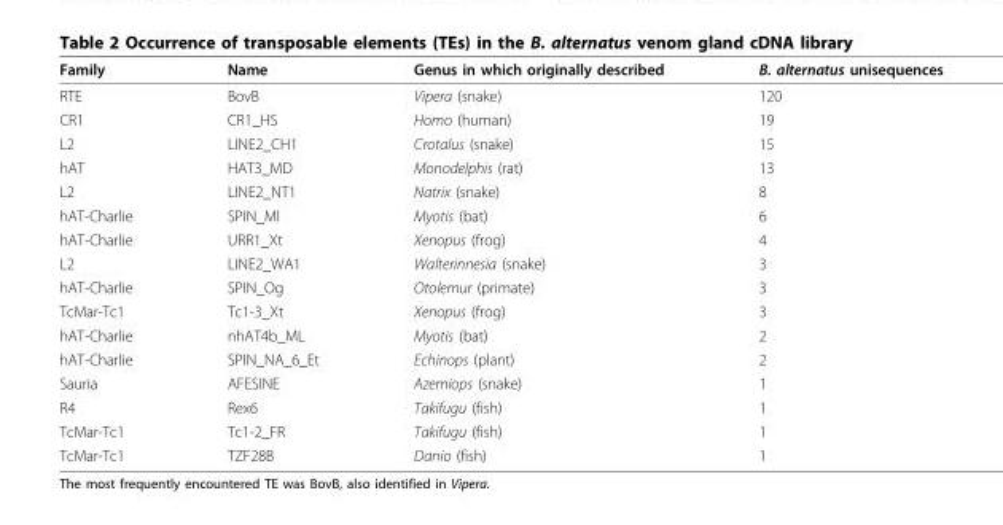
<table><thead><tr><td>Family</td><td>Name</td><td>Genus in which originally described</td><td>B. alternatus unisequences</td></tr></thead><tbody><tr><td>RTE</td><td>BovB</td><td>Vipera (snake)</td><td>120</td></tr><tr><td>CR1</td><td>CR1_HS</td><td>Homo (human)</td><td>19</td></tr><tr><td>L2</td><td>LINE2_CH1</td><td>Crotalus (snake)</td><td>15</td></tr><tr><td>hAT</td><td>HAT3_MD</td><td>Monodelphis (rat)</td><td>13</td></tr><tr><td>L2</td><td>LINE2_NT1</td><td>Natrix (snake)</td><td>8</td></tr><tr><td>hAT-Charlie</td><td>SPIN_Ml</td><td>Myotis (bat)</td><td>6</td></tr><tr><td>hAT-Charlie</td><td>URR1_Xt</td><td>Xenopus (frog)</td><td>4</td></tr><tr><td>L2</td><td>LINE2_WA1</td><td>Walterinnesia (snake)</td><td>3</td></tr><tr><td>hAT-Charlie</td><td>SPIN_Og</td><td>Otolemur (primate)</td><td>3</td></tr><tr><td>TcMar-Tc1</td><td>Tc1-3_Xt</td><td>Xenopus (frog)</td><td>3</td></tr><tr><td>hAT-Charlie</td><td>nhAT4b_ML</td><td>Myotis (bat)</td><td>2</td></tr><tr><td>hAT-Charlie</td><td>SPIN_NA_6_Et</td><td>Echinops (plant)</td><td>2</td></tr><tr><td>Sauria</td><td>AFESINE</td><td>Azemiops (snake)</td><td>1</td></tr><tr><td>R4</td><td>Rex6</td><td>Takifugu (fish)</td><td>1</td></tr><tr><td>TcMar-Tc1</td><td>Tc1-2_FR</td><td>Takifugu (fish)</td><td>1</td></tr><tr><td>TcMar-Tc1</td><td>TZF28B</td><td>Danio (fish)</td><td>1</td></tr></tbody></table>